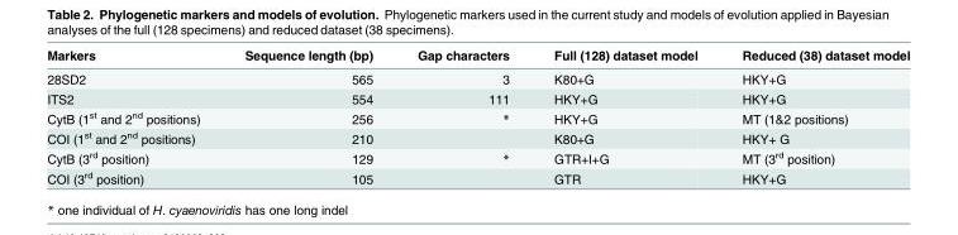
<table><thead><tr><td>Markers</td><td>Sequence length (bp)</td><td>Gap characters</td><td>Full (128) dataset model</td><td>Reduced (38) dataset model</td></tr></thead><tbody><tr><td>28SD2</td><td>565</td><td>3</td><td>K80+G</td><td>HKY+G</td></tr><tr><td>ITS2</td><td>554</td><td>111</td><td>HKY+G</td><td>HKY+G</td></tr><tr><td>CytB (1<sup>st</sup> and 2<sup>nd</sup> positions)</td><td>256</td><td>*</td><td>HKY+G</td><td>MT (1&amp;2 positions)</td></tr><tr><td>COI (1<sup>st</sup> and 2<sup>nd</sup> positions)</td><td>210</td><td></td><td>K80+G</td><td>HKY+ G</td></tr><tr><td>CytB (3<sup>rd</sup> position)</td><td>129</td><td>*</td><td>GTR+I+G</td><td>MT (3<sup>rd</sup> position)</td></tr><tr><td>COI (3<sup>rd</sup> position)</td><td>105</td><td></td><td>GTR</td><td>HKY+G</td></tr></tbody></table>